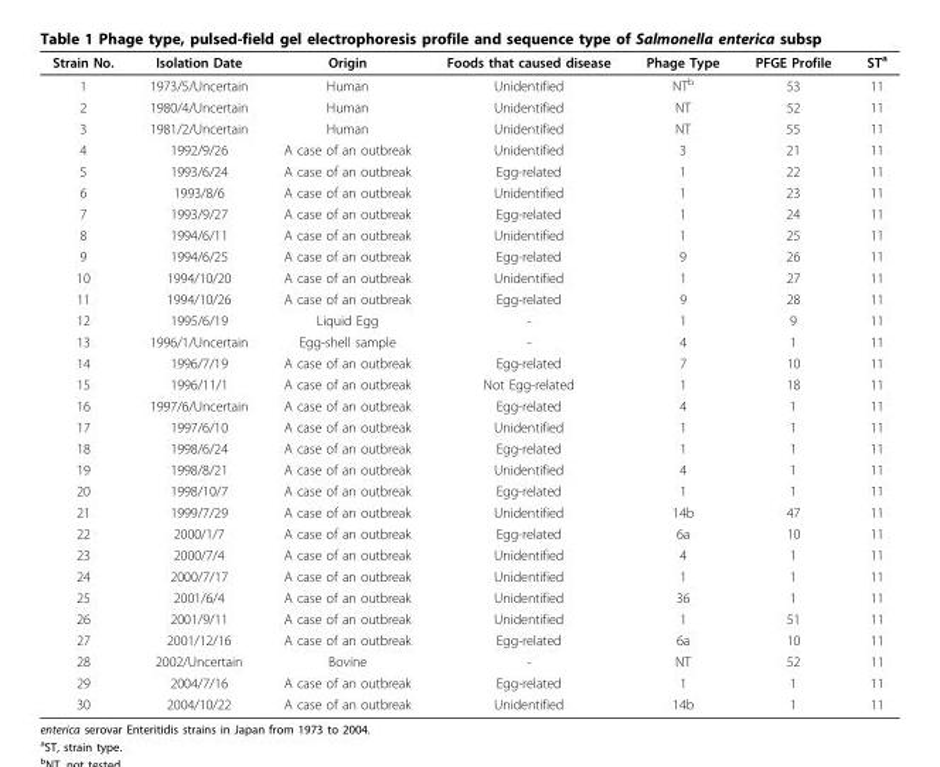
<table><thead><tr><td>Strain No.</td><td>Isolation Date</td><td>Origin</td><td>Foods that caused disease</td><td>Phage Type</td><td>PFGE Profile</td><td>ST<sup>a</sup></td></tr></thead><tbody><tr><td>1</td><td>1973/5/Uncertain</td><td>Human</td><td>Unidentified</td><td>NT<sup>b</sup></td><td>53</td><td>11</td></tr><tr><td>2</td><td>1980/4/Uncertain</td><td>Human</td><td>Unidentified</td><td>NT</td><td>52</td><td>11</td></tr><tr><td>3</td><td>1981/2/Uncertain</td><td>Human</td><td>Unidentified</td><td>NT</td><td>55</td><td>11</td></tr><tr><td>4</td><td>1992/9/26</td><td>A case of an outbreak</td><td>Unidentified</td><td>3</td><td>21</td><td>11</td></tr><tr><td>5</td><td>1993/6/24</td><td>A case of an outbreak</td><td>Egg-related</td><td>1</td><td>22</td><td>11</td></tr><tr><td>6</td><td>1993/8/6</td><td>A case of an outbreak</td><td>Unidentified</td><td>1</td><td>23</td><td>11</td></tr><tr><td>7</td><td>1993/9/27</td><td>A case of an outbreak</td><td>Egg-related</td><td>1</td><td>24</td><td>11</td></tr><tr><td>8</td><td>1994/6/11</td><td>A case of an outbreak</td><td>Unidentified</td><td>1</td><td>25</td><td>11</td></tr><tr><td>9</td><td>1994/6/25</td><td>A case of an outbreak</td><td>Egg-related</td><td>9</td><td>26</td><td>11</td></tr><tr><td>10</td><td>1994/10/20</td><td>A case of an outbreak</td><td>Unidentified</td><td>1</td><td>27</td><td>11</td></tr><tr><td>11</td><td>1994/10/26</td><td>A case of an outbreak</td><td>Egg-related</td><td>9</td><td>28</td><td>11</td></tr><tr><td>12</td><td>1995/6/19</td><td>Liquid Egg</td><td>-</td><td>1</td><td>9</td><td>11</td></tr><tr><td>13</td><td>1996/1/Uncertain</td><td>Egg-shell sample</td><td>-</td><td>4</td><td>1</td><td>11</td></tr><tr><td>14</td><td>1996/7/19</td><td>A case of an outbreak</td><td>Egg-related</td><td>7</td><td>10</td><td>11</td></tr><tr><td>15</td><td>1996/11/1</td><td>A case of an outbreak</td><td>Not Egg-related</td><td>1</td><td>18</td><td>11</td></tr><tr><td>16</td><td>1997/6/Uncertain</td><td>A case of an outbreak</td><td>Egg-related</td><td>4</td><td>1</td><td>11</td></tr><tr><td>17</td><td>1997/6/10</td><td>A case of an outbreak</td><td>Unidentified</td><td>1</td><td>1</td><td>11</td></tr><tr><td>18</td><td>1998/6/24</td><td>A case of an outbreak</td><td>Egg-related</td><td>1</td><td>1</td><td>11</td></tr><tr><td>19</td><td>1998/8/21</td><td>A case of an outbreak</td><td>Unidentified</td><td>4</td><td>1</td><td>11</td></tr><tr><td>20</td><td>1998/10/7</td><td>A case of an outbreak</td><td>Egg-related</td><td>1</td><td>1</td><td>11</td></tr><tr><td>21</td><td>1999/7/29</td><td>A case of an outbreak</td><td>Unidentified</td><td>14b</td><td>47</td><td>11</td></tr><tr><td>22</td><td>2000/1/7</td><td>A case of an outbreak</td><td>Egg-related</td><td>6a</td><td>10</td><td>11</td></tr><tr><td>23</td><td>2000/7/4</td><td>A case of an outbreak</td><td>Unidentified</td><td>4</td><td>1</td><td>11</td></tr><tr><td>24</td><td>2000/7/17</td><td>A case of an outbreak</td><td>Unidentified</td><td>1</td><td>1</td><td>11</td></tr><tr><td>25</td><td>2001/6/4</td><td>A case of an outbreak</td><td>Unidentified</td><td>36</td><td>1</td><td>11</td></tr><tr><td>26</td><td>2001/9/11</td><td>A case of an outbreak</td><td>Unidentified</td><td>1</td><td>51</td><td>11</td></tr><tr><td>27</td><td>2001/12/16</td><td>A case of an outbreak</td><td>Egg-related</td><td>6a</td><td>10</td><td>11</td></tr><tr><td>28</td><td>2002/Uncertain</td><td>Bovine</td><td>-</td><td>NT</td><td>52</td><td>11</td></tr><tr><td>29</td><td>2004/7/16</td><td>A case of an outbreak</td><td>Egg-related</td><td>1</td><td>1</td><td>11</td></tr><tr><td>30</td><td>2004/10/22</td><td>A case of an outbreak</td><td>Unidentified</td><td>14b</td><td>1</td><td>11</td></tr></tbody></table>